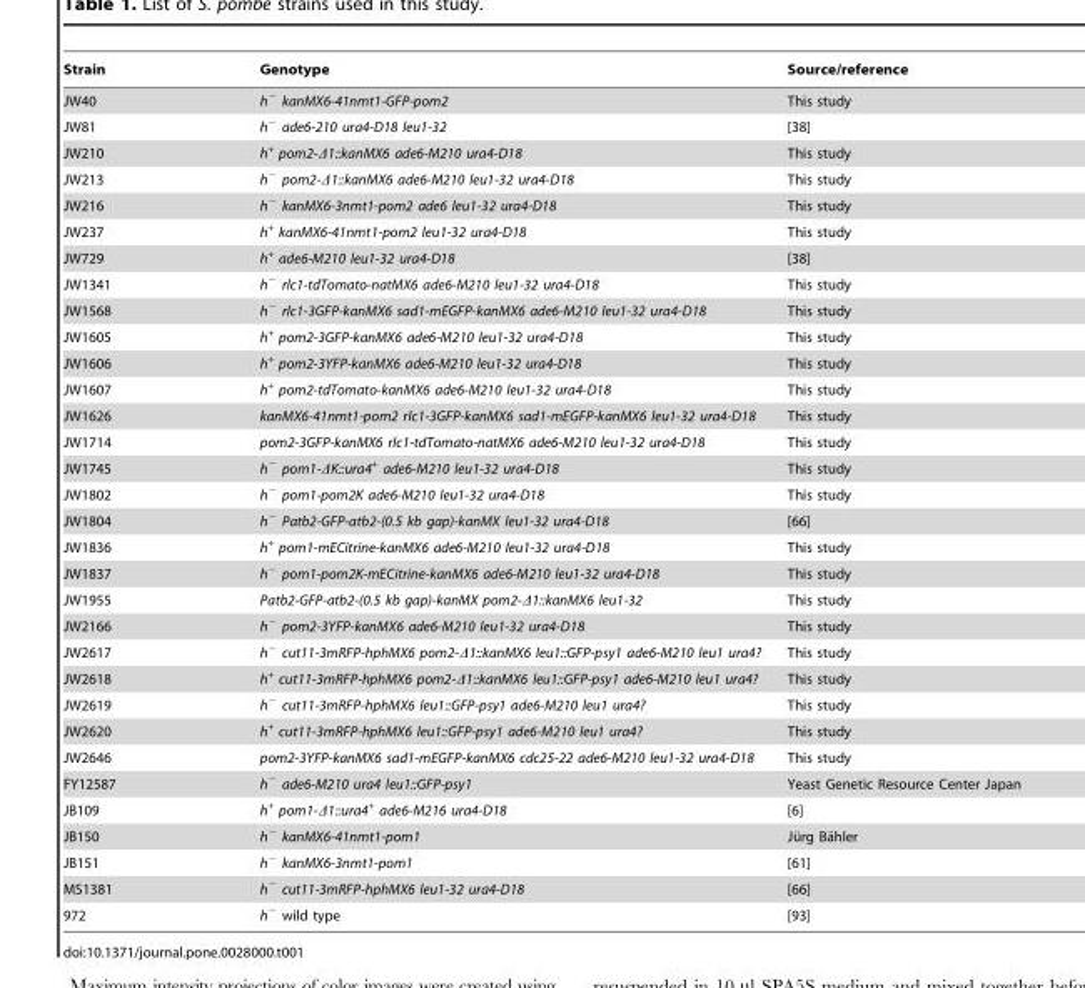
<table><thead><tr><td>Strain</td><td>Genotype</td><td>Source/reference</td></tr></thead><tbody><tr><td>JW40</td><td>h<sup>−</sup> kanMX6-41nmt1-GFP-pom2</td><td>This study</td></tr><tr><td>JW81</td><td>h<sup>−</sup> ade6-210 ura4-D18 leu1-32</td><td>[38]</td></tr><tr><td>JW210</td><td>h<sup>+</sup> pom2-Δ1::kanMX6 ade6-M210 ura4-D18</td><td>This study</td></tr><tr><td>JW213</td><td>h<sup>−</sup> pom2-Δ1::kanMX6 ade6-M210 leu1-32 ura4-D18</td><td>This study</td></tr><tr><td>JW216</td><td>h<sup>−</sup> kanMX6-3nmt1-pom2 ade6 leu1-32 ura4-D18</td><td>This study</td></tr><tr><td>JW237</td><td>h<sup>+</sup> kanMX6-41nmt1-pom2 leu1-32 ura4-D18</td><td>This study</td></tr><tr><td>JW729</td><td>h<sup>+</sup> ade6-M210 leu1-32 ura4-D18</td><td>[38]</td></tr><tr><td>JW1341</td><td>h<sup>−</sup> rlc1-tdTomato-natMX6 ade6-M210 leu1-32 ura4-D18</td><td>This study</td></tr><tr><td>JW1568</td><td>h<sup>−</sup> rlc1-3GFP-kanMX6 sad1-mEGFP-kanMX6 ade6-M210 leu1-32 ura4-D18</td><td>This study</td></tr><tr><td>JW1605</td><td>h<sup>+</sup> pom2-3GFP-kanMX6 ade6-M210 leu1-32 ura4-D18</td><td>This study</td></tr><tr><td>JW1606</td><td>h<sup>+</sup> pom2-3YFP-kanMX6 ade6-M210 leu1-32 ura4-D18</td><td>This study</td></tr><tr><td>JW1607</td><td>h<sup>+</sup> pom2-tdTomato-kanMX6 ade6-M210 leu1-32 ura4-D18</td><td>This study</td></tr><tr><td>JW1626</td><td>kanMX6-41nmt1-pom2 rlc1-3GFP-kanMX6 sad1-mEGFP-kanMX6 leu1-32 ura4-D18</td><td>This study</td></tr><tr><td>JW1714</td><td>pom2-3GFP-kanMX6 rlc1-tdTomato-natMX6 ade6-M210 leu1-32 ura4-D18</td><td>This study</td></tr><tr><td>JW1745</td><td>h<sup>−</sup> pom1-ΔK::ura4<sup>+</sup> ade6-M210 leu1-32 ura4-D18</td><td>This study</td></tr><tr><td>JW1802</td><td>h<sup>−</sup> pom1-pom2K ade6-M210 leu1-32 ura4-D18</td><td>This study</td></tr><tr><td>JW1804</td><td>h<sup>−</sup> Patb2-GFP-atb2-(0.5 kb gap)-kanMX leu1-32 ura4-D18</td><td>[66]</td></tr><tr><td>JW1836</td><td>h<sup>+</sup> pom1-mECitrine-kanMX6 ade6-M210 leu1-32 ura4-D18</td><td>This study</td></tr><tr><td>JW1837</td><td>h<sup>−</sup> pom1-pom2K-mECitrine-kanMX6 ade6-M210 leu1-32 ura4-D18</td><td>This study</td></tr><tr><td>JW1955</td><td>Patb2-GFP-atb2-(0.5 kb gap)-kanMX pom2-Δ1::kanMX6 leu1-32</td><td>This study</td></tr><tr><td>JW2166</td><td>h<sup>−</sup> pom2-3YFP-kanMX6 ade6-M210 leu1-32 ura4-D18</td><td>This study</td></tr><tr><td>JW2617</td><td>h<sup>−</sup> cut11-3mRFP-hphMX6 pom2-Δ1::kanMX6 leu1::GFP-psy1 ade6-M210 leu1 ura4?</td><td>This study</td></tr><tr><td>JW2618</td><td>h<sup>+</sup> cut11-3mRFP-hphMX6 pom2-Δ1::kanMX6 leu1::GFP-psy1 ade6-M210 leu1 ura4?</td><td>This study</td></tr><tr><td>JW2619</td><td>h<sup>−</sup> cut11-3mRFP-hphMX6 leu1::GFP-psy1 ade6-M210 leu1 ura4?</td><td>This study</td></tr><tr><td>JW2620</td><td>h<sup>+</sup> cut11-3mRFP-hphMX6 leu1::GFP-psy1 ade6-M210 leu1 ura4?</td><td>This study</td></tr><tr><td>JW2646</td><td>pom2-3YFP-kanMX6 sad1-mEGFP-kanMX6 cdc25-22 ade6-M210 leu1-32 ura4-D18</td><td>This study</td></tr><tr><td>FY12587</td><td>h<sup>−</sup> ade6-M210 ura4 leu1::GFP-psy1</td><td>Yeast Genetic Resource Center Japan</td></tr><tr><td>JB109</td><td>h<sup>+</sup> pom1-Δ1::ura4<sup>+</sup> ade6-M216 ura4-D18</td><td>[6]</td></tr><tr><td>JB150</td><td>h<sup>−</sup> kanMX6-41nmt1-pom1</td><td>Ju¨rg Ba¨hler</td></tr><tr><td>JB151</td><td>h<sup>−</sup> kanMX6-3nmt1-pom1</td><td>[61]</td></tr><tr><td>MS1381</td><td>h<sup>−</sup> cut11-3mRFP-hphMX6 leu1-32 ura4-D18</td><td>[66]</td></tr><tr><td>972</td><td>h<sup>−</sup> wild type</td><td>[93]</td></tr></tbody></table>